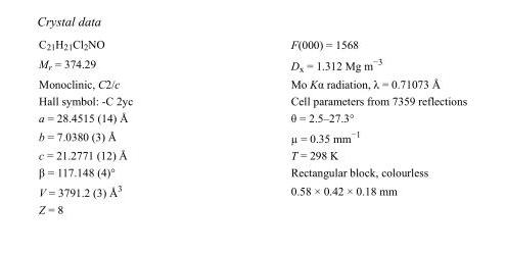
<table><tbody><tr><td>C<sub>21</sub>H<sub>21</sub>Cl<sub>2</sub>NO</td><td>F(000) = 1568</td></tr><tr><td>M<sub>r</sub> = 374.29</td><td>D<sub>x</sub> = 1.312 Mg m<sup>−3</sup></td></tr><tr><td>Monoclinic, C2/c</td><td>Mo Kα radiation, λ = 0.71073 Å</td></tr><tr><td>Hall symbol: -C 2yc</td><td>Cell parameters from 7359 reflections</td></tr><tr><td>a = 28.4515 (14) Å</td><td>θ = 2.5–27.3°</td></tr><tr><td>b = 7.0380 (3) Å</td><td>µ = 0.35 mm<sup>−1</sup></td></tr><tr><td>c = 21.2771 (12) Å</td><td>T = 298 K</td></tr><tr><td>β = 117.148 (4)°</td><td>Rectangular block, colourless</td></tr><tr><td>V = 3791.2 (3) Å<sup>3</sup></td><td>0.58 × 0.42 × 0.18 mm</td></tr><tr><td>Z = 8</td><td></td></tr></tbody></table>